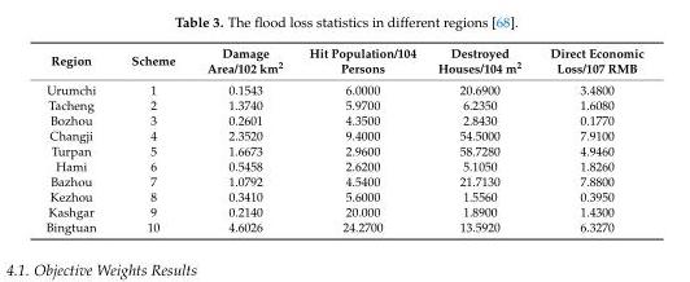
<table><thead><tr><td>Region</td><td>Scheme</td><td>Damage Area/102 km<sup>2</sup></td><td>Hit Population/104 Persons</td><td>Destroyed Houses/104 m<sup>2</sup></td><td>Direct Economic Loss/107 RMB</td></tr></thead><tbody><tr><td>Urumchi</td><td>1</td><td>0.1543</td><td>6.0000</td><td>20.6900</td><td>3.4800</td></tr><tr><td>Tacheng</td><td>2</td><td>1.3740</td><td>5.9700</td><td>6.2350</td><td>1.6080</td></tr><tr><td>Bozhou</td><td>3</td><td>0.2601</td><td>4.3500</td><td>2.8430</td><td>0.1770</td></tr><tr><td>Changji</td><td>4</td><td>2.3520</td><td>9.4000</td><td>54.5000</td><td>7.9100</td></tr><tr><td>Turpan</td><td>5</td><td>1.6673</td><td>2.9600</td><td>58.7280</td><td>4.9460</td></tr><tr><td>Hami</td><td>6</td><td>0.5458</td><td>2.6200</td><td>5.1050</td><td>1.8260</td></tr><tr><td>Bazhou</td><td>7</td><td>1.0792</td><td>4.5400</td><td>21.7130</td><td>7.8800</td></tr><tr><td>Kezhou</td><td>8</td><td>0.3410</td><td>5.6000</td><td>1.5560</td><td>0.3950</td></tr><tr><td>Kashgar</td><td>9</td><td>0.2140</td><td>20.000</td><td>1.8900</td><td>1.4300</td></tr><tr><td>Bingtuan</td><td>10</td><td>4.6026</td><td>24.2700</td><td>13.5920</td><td>6.3270</td></tr></tbody></table>